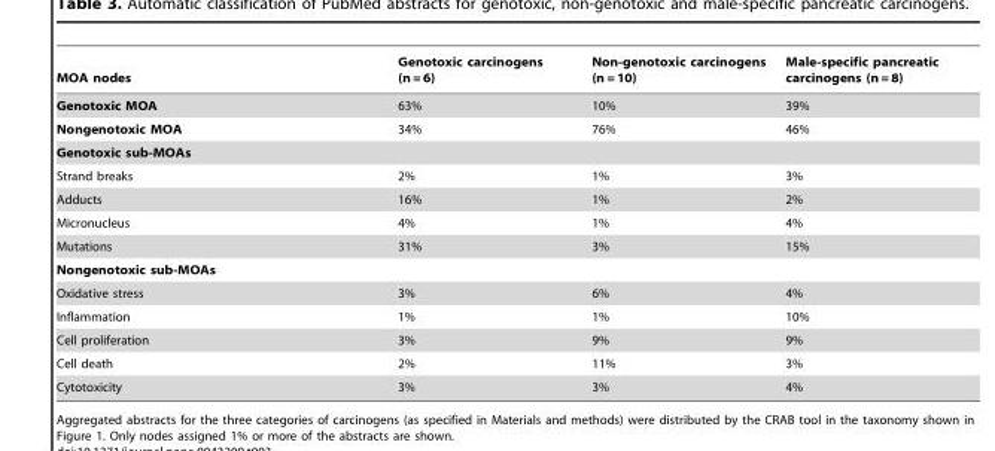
<table><thead><tr><td>MOA nodes</td><td>Genotoxic carcinogens (n = 6)</td><td>Non-genotoxic carcinogens (n = 10)</td><td>Male-specific pancreatic carcinogens (n = 8)</td></tr></thead><tbody><tr><td>Genotoxic MOA</td><td>63%</td><td>10%</td><td>39%</td></tr><tr><td>Nongenotoxic MOA</td><td>34%</td><td>76%</td><td>46%</td></tr><tr><td colspan="4">Genotoxic sub-MOAs</td></tr><tr><td>Strand breaks</td><td>2%</td><td>1%</td><td>3%</td></tr><tr><td>Adducts</td><td>16%</td><td>1%</td><td>2%</td></tr><tr><td>Micronucleus</td><td>4%</td><td>1%</td><td>4%</td></tr><tr><td>Mutations</td><td>31%</td><td>3%</td><td>15%</td></tr><tr><td colspan="4">Nongenotoxic sub-MOAs</td></tr><tr><td>Oxidative stress</td><td>3%</td><td>6%</td><td>4%</td></tr><tr><td>Inflammation</td><td>1%</td><td>1%</td><td>10%</td></tr><tr><td>Cell proliferation</td><td>3%</td><td>9%</td><td>9%</td></tr><tr><td>Cell death</td><td>2%</td><td>11%</td><td>3%</td></tr><tr><td>Cytotoxicity</td><td>3%</td><td>3%</td><td>4%</td></tr></tbody></table>